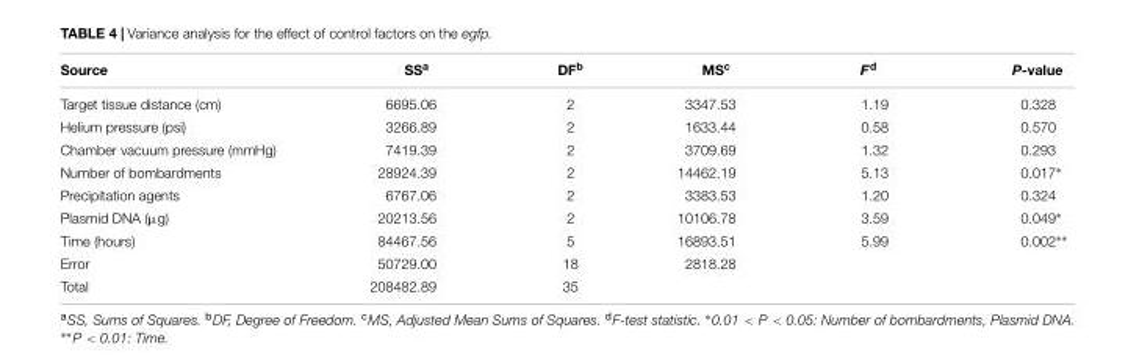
<table><thead><tr><td>Source</td><td>SS<sup>a</sup></td><td>DF<sup>b</sup></td><td>MS<sup>c</sup></td><td>F<sup>d</sup></td><td>P-value</td></tr></thead><tbody><tr><td>Target tissue distance (cm)</td><td>6695.06</td><td>2</td><td>3347.53</td><td>1.19</td><td>0.328</td></tr><tr><td>Helium pressure (psi)</td><td>3266.89</td><td>2</td><td>1633.44</td><td>0.58</td><td>0.570</td></tr><tr><td>Chamber vacuum pressure (mmHg)</td><td>7419.39</td><td>2</td><td>3709.69</td><td>1.32</td><td>0.293</td></tr><tr><td>Number of bombardments</td><td>28924.39</td><td>2</td><td>14462.19</td><td>5.13</td><td>0.017∗</td></tr><tr><td>Precipitation agents</td><td>6767.06</td><td>2</td><td>3383.53</td><td>1.20</td><td>0.324</td></tr><tr><td>Plasmid DNA (µg)</td><td>20213.56</td><td>2</td><td>10106.78</td><td>3.59</td><td>0.049∗</td></tr><tr><td>Time (hours)</td><td>84467.56</td><td>5</td><td>16893.51</td><td>5.99</td><td>0.002∗∗</td></tr><tr><td>Error</td><td>50729.00</td><td>18</td><td>2818.28</td><td></td><td></td></tr><tr><td>Total</td><td>208482.89</td><td>35</td><td></td><td></td><td></td></tr></tbody></table>